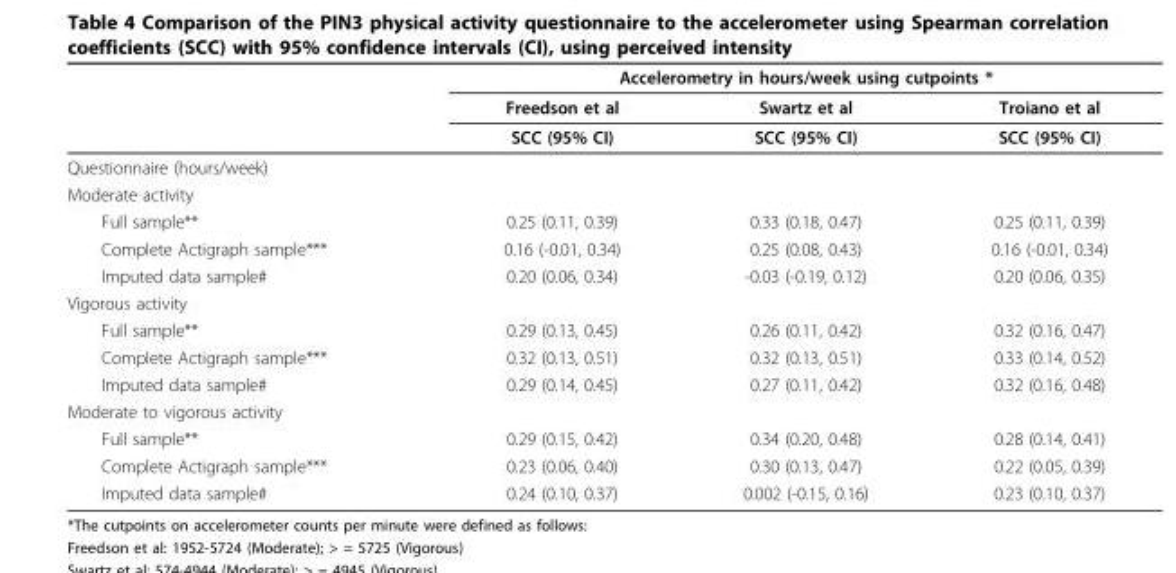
<table><thead><tr><td rowspan="3"></td><td colspan="3">Accelerometry in hours/week using cutpoints *</td></tr><tr><td rowspan="2">Freedson et al SCC (95% CI)</td><td rowspan="2">Swartz et al SCC (95% CI)</td><td rowspan="2">Troiano et al SCC (95% CI)</td></tr><tr></tr></thead><tbody><tr><td colspan="4">Questionnaire (hours/week)</td></tr><tr><td colspan="4">Moderate activity</td></tr><tr><td>Full sample**</td><td>0.25 (0.11, 0.39)</td><td>0.33 (0.18, 0.47)</td><td>0.25 (0.11, 0.39)</td></tr><tr><td>Complete Actigraph sample***</td><td>0.16 (-0.01, 0.34)</td><td>0.25 (0.08, 0.43)</td><td>0.16 (-0.01, 0.34)</td></tr><tr><td>Imputed data sample#</td><td>0.20 (0.06, 0.34)</td><td>-0.03 (-0.19, 0.12)</td><td>0.20 (0.06, 0.35)</td></tr><tr><td colspan="4">Vigorous activity</td></tr><tr><td>Full sample**</td><td>0.29 (0.13, 0.45)</td><td>0.26 (0.11, 0.42)</td><td>0.32 (0.16, 0.47)</td></tr><tr><td>Complete Actigraph sample***</td><td>0.32 (0.13, 0.51)</td><td>0.32 (0.13, 0.51)</td><td>0.33 (0.14, 0.52)</td></tr><tr><td>Imputed data sample#</td><td>0.29 (0.14, 0.45)</td><td>0.27 (0.11, 0.42)</td><td>0.32 (0.16, 0.48)</td></tr><tr><td colspan="4">Moderate to vigorous activity</td></tr><tr><td>Full sample**</td><td>0.29 (0.15, 0.42)</td><td>0.34 (0.20, 0.48)</td><td>0.28 (0.14, 0.41)</td></tr><tr><td>Complete Actigraph sample***</td><td>0.23 (0.06, 0.40)</td><td>0.30 (0.13, 0.47)</td><td>0.22 (0.05, 0.39)</td></tr><tr><td>Imputed data sample#</td><td>0.24 (0.10, 0.37)</td><td>0.002 (-0.15, 0.16)</td><td>0.23 (0.10, 0.37)</td></tr></tbody></table>